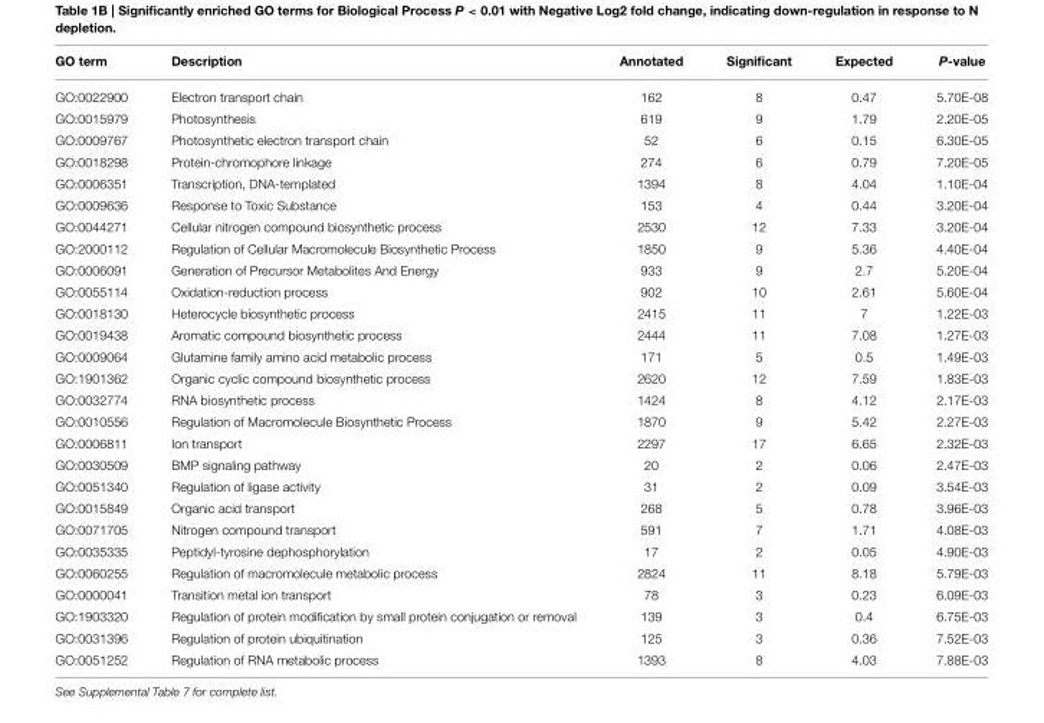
<table><thead><tr><td>GO term</td><td>Description</td><td>Annotated</td><td>Significant</td><td>Expected</td><td>P-value</td></tr></thead><tbody><tr><td>GO:0022900</td><td>Electron transport chain</td><td>162</td><td>8</td><td>0.47</td><td>5.70E-08</td></tr><tr><td>GO:0015979</td><td>Photosynthesis</td><td>619</td><td>9</td><td>1.79</td><td>2.20E-05</td></tr><tr><td>GO:0009767</td><td>Photosynthetic electron transport chain</td><td>52</td><td>6</td><td>0.15</td><td>6.30E-05</td></tr><tr><td>GO:0018298</td><td>Protein-chromophore linkage</td><td>274</td><td>6</td><td>0.79</td><td>7.20E-05</td></tr><tr><td>GO:0006351</td><td>Transcription, DNA-templated</td><td>1394</td><td>8</td><td>4.04</td><td>1.10E-04</td></tr><tr><td>GO:0009636</td><td>Response to Toxic Substance</td><td>153</td><td>4</td><td>0.44</td><td>3.20E-04</td></tr><tr><td>GO:0044271</td><td>Cellular nitrogen compound biosynthetic process</td><td>2530</td><td>12</td><td>7.33</td><td>3.20E-04</td></tr><tr><td>GO:2000112</td><td>Regulation of Cellular Macromolecule Biosynthetic Process</td><td>1850</td><td>9</td><td>5.36</td><td>4.40E-04</td></tr><tr><td>GO:0006091</td><td>Generation of Precursor Metabolites And Energy</td><td>933</td><td>9</td><td>2.7</td><td>5.20E-04</td></tr><tr><td>GO:0055114</td><td>Oxidation-reduction process</td><td>902</td><td>10</td><td>2.61</td><td>5.60E-04</td></tr><tr><td>GO:0018130</td><td>Heterocycle biosynthetic process</td><td>2415</td><td>11</td><td>7</td><td>1.22E-03</td></tr><tr><td>GO:0019438</td><td>Aromatic compound biosynthetic process</td><td>2444</td><td>11</td><td>7.08</td><td>1.27E-03</td></tr><tr><td>GO:0009064</td><td>Glutamine family amino acid metabolic process</td><td>171</td><td>5</td><td>0.5</td><td>1.49E-03</td></tr><tr><td>GO:1901362</td><td>Organic cyclic compound biosynthetic process</td><td>2620</td><td>12</td><td>7.59</td><td>1.83E-03</td></tr><tr><td>GO:0032774</td><td>RNA biosynthetic process</td><td>1424</td><td>8</td><td>4.12</td><td>2.17E-03</td></tr><tr><td>GO:0010556</td><td>Regulation of Macromolecule Biosynthetic Process</td><td>1870</td><td>9</td><td>5.42</td><td>2.27E-03</td></tr><tr><td>GO:0006811</td><td>Ion transport</td><td>2297</td><td>17</td><td>6.65</td><td>2.32E-03</td></tr><tr><td>GO:0030509</td><td>BMP signaling pathway</td><td>20</td><td>2</td><td>0.06</td><td>2.47E-03</td></tr><tr><td>GO:0051340</td><td>Regulation of ligase activity</td><td>31</td><td>2</td><td>0.09</td><td>3.54E-03</td></tr><tr><td>GO:0015849</td><td>Organic acid transport</td><td>268</td><td>5</td><td>0.78</td><td>3.96E-03</td></tr><tr><td>GO:0071705</td><td>Nitrogen compound transport</td><td>591</td><td>7</td><td>1.71</td><td>4.08E-03</td></tr><tr><td>GO:0035335</td><td>Peptidyl-tyrosine dephosphorylation</td><td>17</td><td>2</td><td>0.05</td><td>4.90E-03</td></tr><tr><td>GO:0060255</td><td>Regulation of macromolecule metabolic process</td><td>2824</td><td>11</td><td>8.18</td><td>5.79E-03</td></tr><tr><td>GO:0000041</td><td>Transition metal ion transport</td><td>78</td><td>3</td><td>0.23</td><td>6.09E-03</td></tr><tr><td>GO:1903320</td><td>Regulation of protein modification by small protein conjugation or removal</td><td>139</td><td>3</td><td>0.4</td><td>6.75E-03</td></tr><tr><td>GO:0031396</td><td>Regulation of protein ubiquitination</td><td>125</td><td>3</td><td>0.36</td><td>7.52E-03</td></tr><tr><td>GO:0051252</td><td>Regulation of RNA metabolic process</td><td>1393</td><td>8</td><td>4.03</td><td>7.88E-03</td></tr></tbody></table>